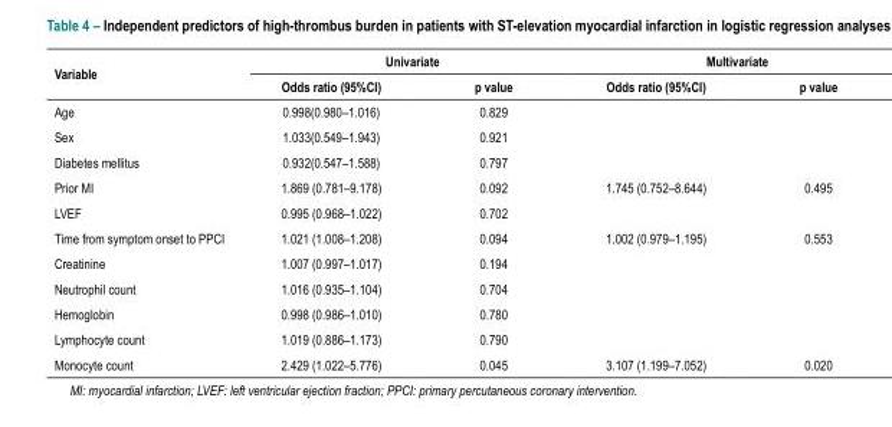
<table><thead><tr><td rowspan="2">Variable</td><td colspan="2">Univariate</td><td colspan="2">Multivariate</td></tr><tr><td>Odds ratio (95%CI)</td><td>p value</td><td>Odds ratio (95%CI)</td><td>p value</td></tr></thead><tbody><tr><td>Age</td><td>0.998(0.980–1.016)</td><td>0.829</td><td></td><td></td></tr><tr><td>Sex</td><td>1.033(0.549–1.943)</td><td>0.921</td><td></td><td></td></tr><tr><td>Diabetes mellitus</td><td>0.932(0.547–1.588)</td><td>0.797</td><td></td><td></td></tr><tr><td>Prior MI</td><td>1.869 (0.781–9.178)</td><td>0.092</td><td>1.745 (0.752–8.644)</td><td>0.495</td></tr><tr><td>LVEF</td><td>0.995 (0.968–1.022)</td><td>0.702</td><td></td><td></td></tr><tr><td>Time from symptom onset to PPCI</td><td>1.021 (1.008–1.208)</td><td>0.094</td><td>1.002 (0.979–1.195)</td><td>0.553</td></tr><tr><td>Creatinine</td><td>1.007 (0.997–1.017)</td><td>0.194</td><td></td><td></td></tr><tr><td>Neutrophil count</td><td>1.016 (0.935–1.104)</td><td>0.704</td><td></td><td></td></tr><tr><td>Hemoglobin</td><td>0.998 (0.986–1.010)</td><td>0.780</td><td></td><td></td></tr><tr><td>Lymphocyte count</td><td>1.019 (0.886–1.173)</td><td>0.790</td><td></td><td></td></tr><tr><td>Monocyte count</td><td>2.429 (1.022–5.776)</td><td>0.045</td><td>3.107 (1.199–7.052)</td><td>0.020</td></tr></tbody></table>